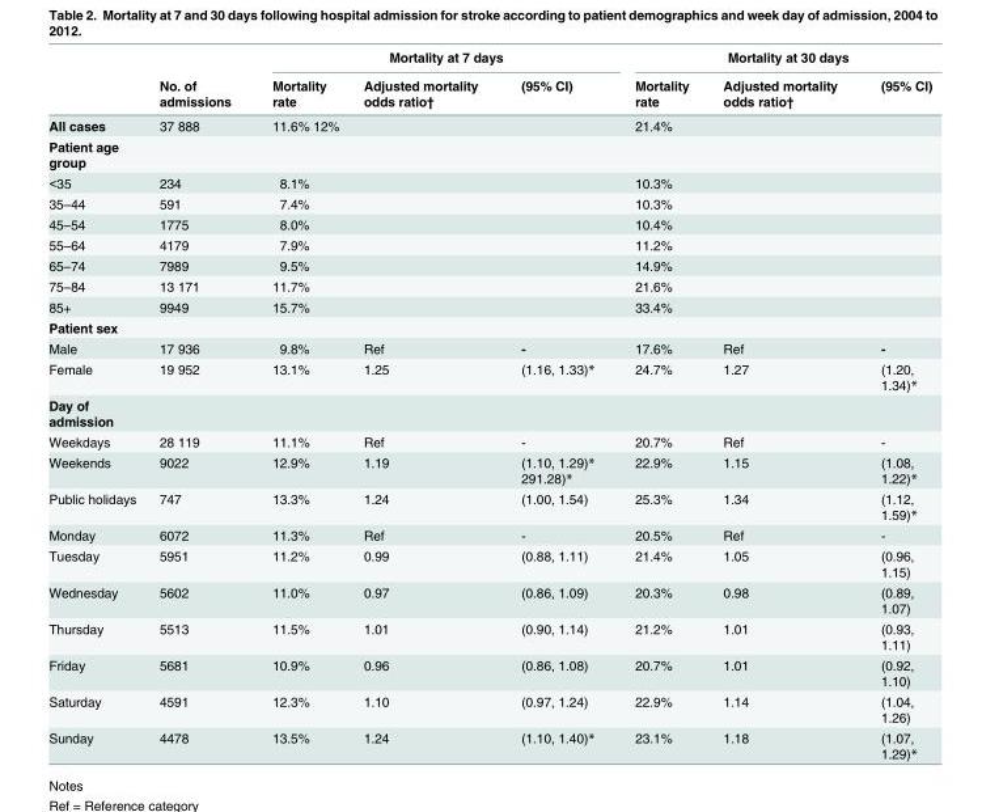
<table><thead><tr><td rowspan="2"></td><td rowspan="2">No. of admissions</td><td colspan="3">Mortality at 7 days</td><td colspan="3">Mortality at 30 days</td></tr><tr><td>Mortality rate</td><td>Adjusted mortality odds ratio†</td><td>(95% CI)</td><td>Mortality rate</td><td>Adjusted mortality odds ratio†</td><td>(95% CI)</td></tr></thead><tbody><tr><td>All cases</td><td>37 888</td><td>11.6% 12%</td><td></td><td></td><td>21.4%</td><td></td><td></td></tr><tr><td colspan="8">Patient age group</td></tr><tr><td>&lt;35</td><td>234</td><td>8.1%</td><td></td><td></td><td>10.3%</td><td></td><td></td></tr><tr><td>35–44</td><td>591</td><td>7.4%</td><td></td><td></td><td>10.3%</td><td></td><td></td></tr><tr><td>45–54</td><td>1775</td><td>8.0%</td><td></td><td></td><td>10.4%</td><td></td><td></td></tr><tr><td>55–64</td><td>4179</td><td>7.9%</td><td></td><td></td><td>11.2%</td><td></td><td></td></tr><tr><td>65–74</td><td>7989</td><td>9.5%</td><td></td><td></td><td>14.9%</td><td></td><td></td></tr><tr><td>75–84</td><td>13 171</td><td>11.7%</td><td></td><td></td><td>21.6%</td><td></td><td></td></tr><tr><td>85+</td><td>9949</td><td>15.7%</td><td></td><td></td><td>33.4%</td><td></td><td></td></tr><tr><td colspan="8">Patient sex</td></tr><tr><td>Male</td><td>17 936</td><td>9.8%</td><td>Ref</td><td>-</td><td>17.6%</td><td>Ref</td><td>-</td></tr><tr><td>Female</td><td>19 952</td><td>13.1%</td><td>1.25</td><td>(1.16, 1.33)*</td><td>24.7%</td><td>1.27</td><td>(1.20, 1.34)*</td></tr><tr><td colspan="8">Day of admission</td></tr><tr><td>Weekdays</td><td>28 119</td><td>11.1%</td><td>Ref</td><td>-</td><td>20.7%</td><td>Ref</td><td>-</td></tr><tr><td>Weekends</td><td>9022</td><td>12.9%</td><td>1.19</td><td>(1.10, 1.29)* 291.28)*</td><td>22.9%</td><td>1.15</td><td>(1.08, 1.22)*</td></tr><tr><td>Public holidays</td><td>747</td><td>13.3%</td><td>1.24</td><td>(1.00, 1.54)</td><td>25.3%</td><td>1.34</td><td>(1.12, 1.59)*</td></tr><tr><td>Monday</td><td>6072</td><td>11.3%</td><td>Ref</td><td>-</td><td>20.5%</td><td>Ref</td><td>-</td></tr><tr><td>Tuesday</td><td>5951</td><td>11.2%</td><td>0.99</td><td>(0.88, 1.11)</td><td>21.4%</td><td>1.05</td><td>(0.96, 1.15)</td></tr><tr><td>Wednesday</td><td>5602</td><td>11.0%</td><td>0.97</td><td>(0.86, 1.09)</td><td>20.3%</td><td>0.98</td><td>(0.89, 1.07)</td></tr><tr><td>Thursday</td><td>5513</td><td>11.5%</td><td>1.01</td><td>(0.90, 1.14)</td><td>21.2%</td><td>1.01</td><td>(0.93, 1.11)</td></tr><tr><td>Friday</td><td>5681</td><td>10.9%</td><td>0.96</td><td>(0.86, 1.08)</td><td>20.7%</td><td>1.01</td><td>(0.92, 1.10)</td></tr><tr><td>Saturday</td><td>4591</td><td>12.3%</td><td>1.10</td><td>(0.97, 1.24)</td><td>22.9%</td><td>1.14</td><td>(1.04, 1.26)</td></tr><tr><td>Sunday</td><td>4478</td><td>13.5%</td><td>1.24</td><td>(1.10, 1.40)*</td><td>23.1%</td><td>1.18</td><td>(1.07, 1.29)*</td></tr></tbody></table>